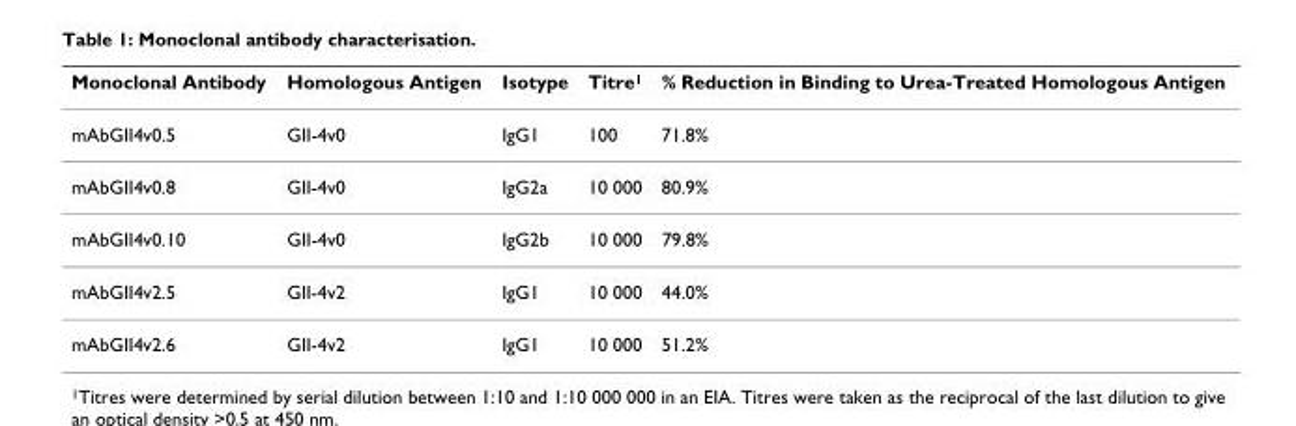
<table><thead><tr><td>Monoclonal Antibody</td><td>Homologous Antigen</td><td>Isotype</td><td>Titre<sup>1</sup></td><td>% Reduction in Binding to Urea-Treated Homologous Antigen</td></tr></thead><tbody><tr><td>mAbGII4v0.5</td><td>GII-4v0</td><td>IgG1</td><td>100</td><td>71.8%</td></tr><tr><td>mAbGII4v0.8</td><td>GII-4v0</td><td>IgG2a</td><td>10 000</td><td>80.9%</td></tr><tr><td>mAbGII4v0.10</td><td>GII-4v0</td><td>IgG2b</td><td>10 000</td><td>79.8%</td></tr><tr><td>mAbGII4v2.5</td><td>GII-4v2</td><td>IgG1</td><td>10 000</td><td>44.0%</td></tr><tr><td>mAbGII4v2.6</td><td>GII-4v2</td><td>IgG1</td><td>10 000</td><td>51.2%</td></tr></tbody></table>